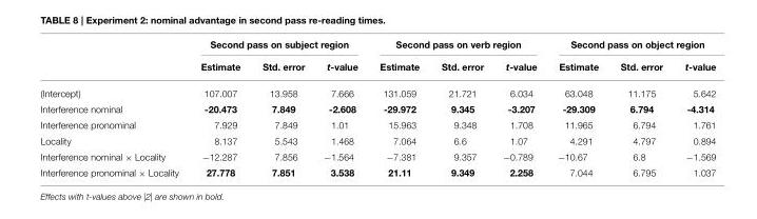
<table><thead><tr><td rowspan="2"></td><td colspan="3">Second pass on subject region</td><td colspan="3">Second pass on verb region</td><td colspan="3">Second pass on object region</td></tr><tr><td>Estimate</td><td>Std. error</td><td>t-value</td><td>Estimate</td><td>Std. error</td><td>t-value</td><td>Estimate</td><td>Std. error</td><td>t-value</td></tr></thead><tbody><tr><td>(Intercept)</td><td>107.007</td><td>13.958</td><td>7.666</td><td>131.059</td><td>21.721</td><td>6.034</td><td>63.048</td><td>11.175</td><td>5.642</td></tr><tr><td>Interference nominal</td><td>-20.473</td><td>7.849</td><td>-2.608</td><td>-29.972</td><td>9.345</td><td>-3.207</td><td>-29.309</td><td>6.794</td><td>-4.314</td></tr><tr><td>Interference pronominal</td><td>7.929</td><td>7.849</td><td>1.01</td><td>15.963</td><td>9.348</td><td>1.708</td><td>11.965</td><td>6.794</td><td>1.761</td></tr><tr><td>Locality</td><td>8.137</td><td>5.543</td><td>1.468</td><td>7.064</td><td>6.6</td><td>1.07</td><td>4.291</td><td>4.797</td><td>0.894</td></tr><tr><td>Interference nominal × Locality</td><td>−12.287</td><td>7.856</td><td>−1.564</td><td>−7.381</td><td>9.357</td><td>−0.789</td><td>−10.67</td><td>6.8</td><td>−1.569</td></tr><tr><td>Interference pronominal × Locality</td><td>27.778</td><td>7.851</td><td>3.538</td><td>21.11</td><td>9.349</td><td>2.258</td><td>7.044</td><td>6.795</td><td>1.037</td></tr></tbody></table>